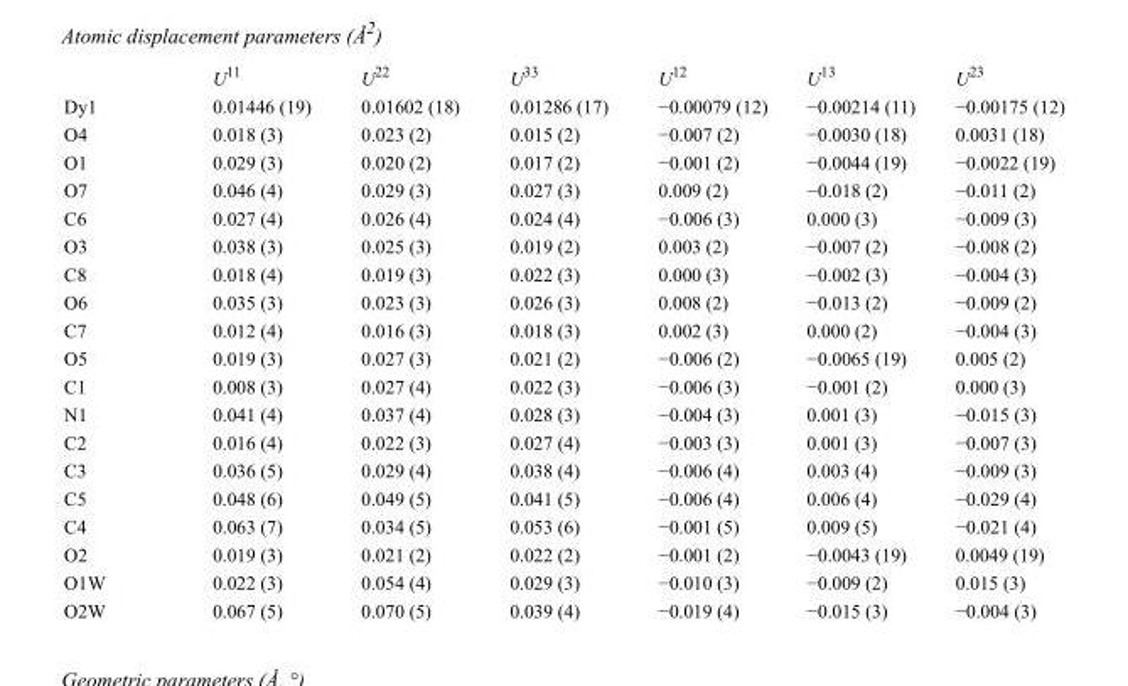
<table><thead><tr><td></td><td>U<sup>11</sup></td><td>U<sup>22</sup></td><td>U<sup>33</sup></td><td>U<sup>12</sup></td><td>U<sup>13</sup></td><td>U<sup>23</sup></td></tr></thead><tbody><tr><td>Dy1</td><td>0.01446 (19)</td><td>0.01602 (18)</td><td>0.01286 (17)</td><td>−0.00079 (12)</td><td>−0.00214 (11)</td><td>−0.00175 (12)</td></tr><tr><td>O4</td><td>0.018 (3)</td><td>0.023 (2)</td><td>0.015 (2)</td><td>−0.007 (2)</td><td>−0.0030 (18)</td><td>0.0031 (18)</td></tr><tr><td>O1</td><td>0.029 (3)</td><td>0.020 (2)</td><td>0.017 (2)</td><td>−0.001 (2)</td><td>−0.0044 (19)</td><td>−0.0022 (19)</td></tr><tr><td>O7</td><td>0.046 (4)</td><td>0.029 (3)</td><td>0.027 (3)</td><td>0.009 (2)</td><td>−0.018 (2)</td><td>−0.011 (2)</td></tr><tr><td>C6</td><td>0.027 (4)</td><td>0.026 (4)</td><td>0.024 (4)</td><td>−0.006 (3)</td><td>0.000 (3)</td><td>−0.009 (3)</td></tr><tr><td>O3</td><td>0.038 (3)</td><td>0.025 (3)</td><td>0.019 (2)</td><td>0.003 (2)</td><td>−0.007 (2)</td><td>−0.008 (2)</td></tr><tr><td>C8</td><td>0.018 (4)</td><td>0.019 (3)</td><td>0.022 (3)</td><td>0.000 (3)</td><td>−0.002 (3)</td><td>−0.004 (3)</td></tr><tr><td>O6</td><td>0.035 (3)</td><td>0.023 (3)</td><td>0.026 (3)</td><td>0.008 (2)</td><td>−0.013 (2)</td><td>−0.009 (2)</td></tr><tr><td>C7</td><td>0.012 (4)</td><td>0.016 (3)</td><td>0.018 (3)</td><td>0.002 (3)</td><td>0.000 (2)</td><td>−0.004 (3)</td></tr><tr><td>O5</td><td>0.019 (3)</td><td>0.027 (3)</td><td>0.021 (2)</td><td>−0.006 (2)</td><td>−0.0065 (19)</td><td>0.005 (2)</td></tr><tr><td>C1</td><td>0.008 (3)</td><td>0.027 (4)</td><td>0.022 (3)</td><td>−0.006 (3)</td><td>−0.001 (2)</td><td>0.000 (3)</td></tr><tr><td>N1</td><td>0.041 (4)</td><td>0.037 (4)</td><td>0.028 (3)</td><td>−0.004 (3)</td><td>0.001 (3)</td><td>−0.015 (3)</td></tr><tr><td>C2</td><td>0.016 (4)</td><td>0.022 (3)</td><td>0.027 (4)</td><td>−0.003 (3)</td><td>0.001 (3)</td><td>−0.007 (3)</td></tr><tr><td>C3</td><td>0.036 (5)</td><td>0.029 (4)</td><td>0.038 (4)</td><td>−0.006 (4)</td><td>0.003 (4)</td><td>−0.009 (3)</td></tr><tr><td>C5</td><td>0.048 (6)</td><td>0.049 (5)</td><td>0.041 (5)</td><td>−0.006 (4)</td><td>0.006 (4)</td><td>−0.029 (4)</td></tr><tr><td>C4</td><td>0.063 (7)</td><td>0.034 (5)</td><td>0.053 (6)</td><td>−0.001 (5)</td><td>0.009 (5)</td><td>−0.021 (4)</td></tr><tr><td>O2</td><td>0.019 (3)</td><td>0.021 (2)</td><td>0.022 (2)</td><td>−0.001 (2)</td><td>−0.0043 (19)</td><td>0.0049 (19)</td></tr><tr><td>O1W</td><td>0.022 (3)</td><td>0.054 (4)</td><td>0.029 (3)</td><td>−0.010 (3)</td><td>−0.009 (2)</td><td>0.015 (3)</td></tr><tr><td>O2W</td><td>0.067 (5)</td><td>0.070 (5)</td><td>0.039 (4)</td><td>−0.019 (4)</td><td>−0.015 (3)</td><td>−0.004 (3)</td></tr></tbody></table>